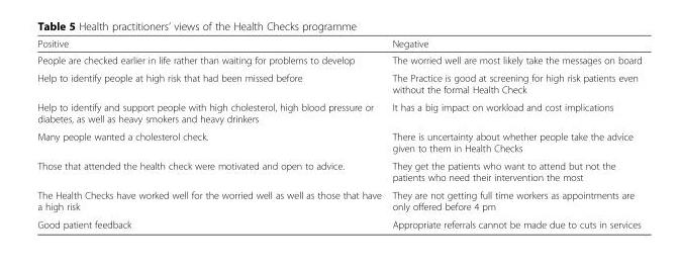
<table><thead><tr><td>Positive</td><td>Negative</td></tr></thead><tbody><tr><td>People are checked earlier in life rather than waiting for problems to develop</td><td>The worried well are most likely take the messages on board</td></tr><tr><td>Help to identify people at high risk that had been missed before</td><td>The Practice is good at screening for high risk patients even without the formal Health Check</td></tr><tr><td>Help to identify and support people with high cholesterol, high blood pressure or diabetes, as well as heavy smokers and heavy drinkers</td><td>It has a big impact on workload and cost implications</td></tr><tr><td>Many people wanted a cholesterol check.</td><td>There is uncertainty about whether people take the advice given to them in Health Checks</td></tr><tr><td>Those that attended the health check were motivated and open to advice.</td><td>They get the patients who want to attend but not the patients who need their intervention the most</td></tr><tr><td>The Health Checks have worked well for the worried well as well as those that have a high risk</td><td>They are not getting full time workers as appointments are only offered before 4 pm</td></tr><tr><td>Good patient feedback</td><td>Appropriate referrals cannot be made due to cuts in services</td></tr></tbody></table>